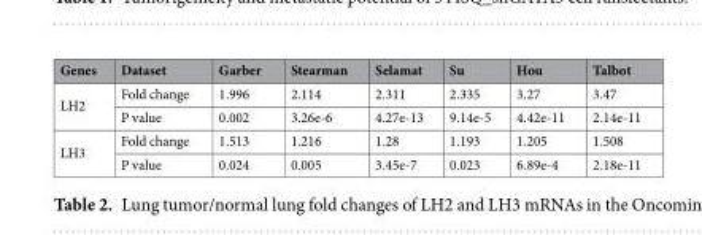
<table><thead><tr><td>Genes</td><td>Dataset</td><td>Garber</td><td>Stearman</td><td>Selamat</td><td>Su</td><td>Hou</td><td>Talbot</td></tr></thead><tbody><tr><td rowspan="2">LH2</td><td>Fold change</td><td>1.996</td><td>2.114</td><td>2.311</td><td>2.335</td><td>3.27</td><td>3.47</td></tr><tr><td>P value</td><td>0.002</td><td>3.26e-6</td><td>4.27e-13</td><td>9.14e-5</td><td>4.42e-11</td><td>2.14e-11</td></tr><tr><td rowspan="2">LH3</td><td>Fold change</td><td>1.513</td><td>1.216</td><td>1.28</td><td>1.193</td><td>1.205</td><td>1.508</td></tr><tr><td>P value</td><td>0.024</td><td>0.005</td><td>3.45e-7</td><td>0.023</td><td>6.89e-4</td><td>2.18e-11</td></tr></tbody></table>